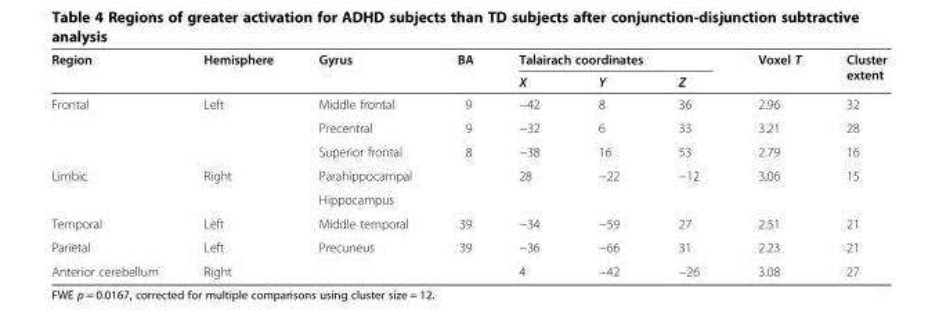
<table><thead><tr><td rowspan="2">Region</td><td rowspan="2">Hemisphere</td><td rowspan="2">Gyrus</td><td rowspan="2">BA</td><td colspan="3">Talairach coordinates</td><td rowspan="2">Voxel T</td><td rowspan="2">Cluster extent</td></tr><tr><td>X</td><td>Y</td><td>Z</td></tr></thead><tbody><tr><td rowspan="3">Frontal</td><td rowspan="3">Left</td><td>Middle frontal</td><td>9</td><td>−42</td><td>8</td><td>36</td><td>2.96</td><td>32</td></tr><tr><td>Precentral</td><td>9</td><td>−32</td><td>6</td><td>33</td><td>3.21</td><td>28</td></tr><tr><td>Superior frontal</td><td>8</td><td>−38</td><td>16</td><td>53</td><td>2.79</td><td>16</td></tr><tr><td rowspan="2">Limbic</td><td rowspan="2">Right</td><td>Parahippocampal</td><td rowspan="2"></td><td rowspan="2">28</td><td rowspan="2">−22</td><td rowspan="2">−12</td><td rowspan="2">3.06</td><td rowspan="2">15</td></tr><tr><td>Hippocampus</td></tr><tr><td>Temporal</td><td>Left</td><td>Middle temporal</td><td>39</td><td>−34</td><td>−59</td><td>27</td><td>2.51</td><td>21</td></tr><tr><td>Parietal</td><td>Left</td><td>Precuneus</td><td>39</td><td>−36</td><td>−66</td><td>31</td><td>2.23</td><td>21</td></tr><tr><td>Anterior cerebellum</td><td>Right</td><td></td><td></td><td>4</td><td>−42</td><td>−26</td><td>3.08</td><td>27</td></tr></tbody></table>